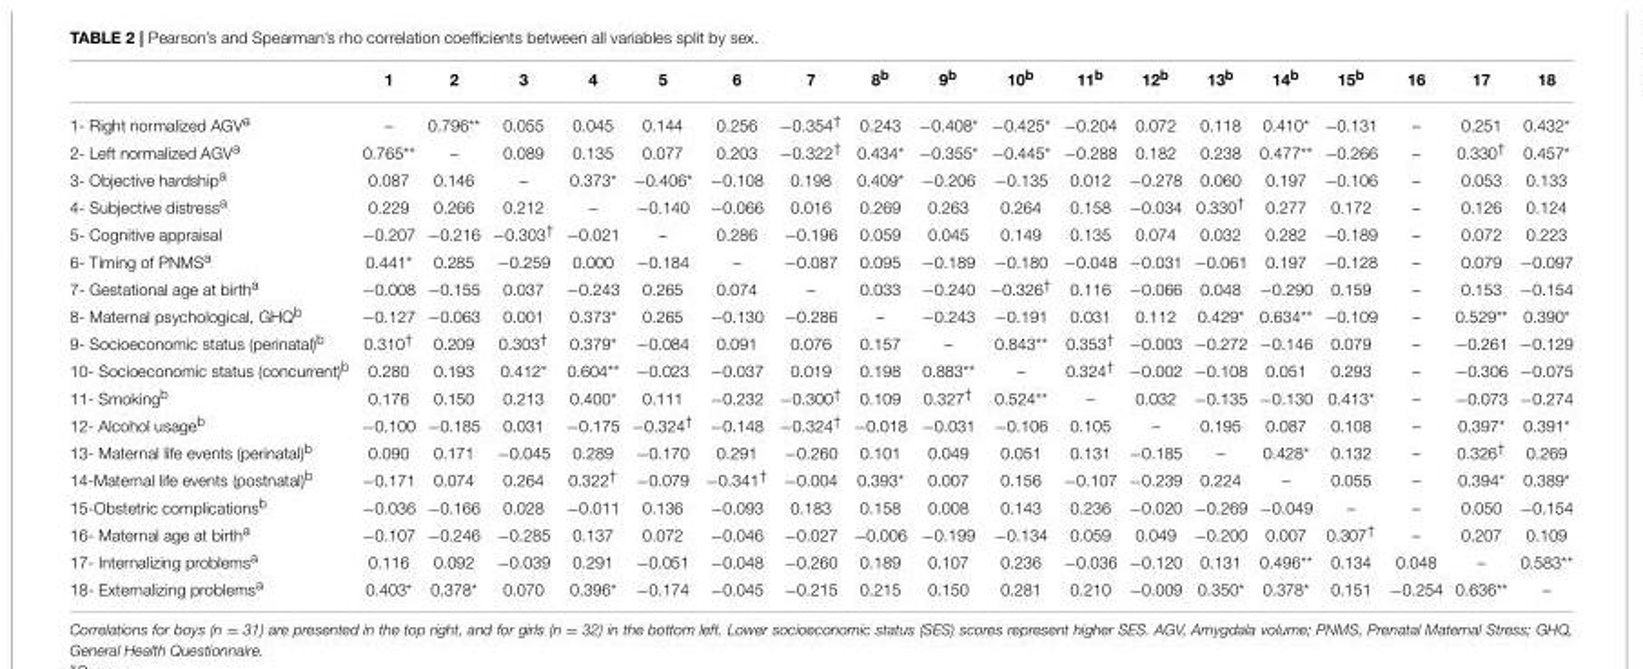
<table><thead><tr><td></td><td>1</td><td>2</td><td>3</td><td>4</td><td>5</td><td>6</td><td>7</td><td>8<sup>b</sup></td><td>9<sup>b</sup></td><td>10<sup>b</sup></td><td>11<sup>b</sup></td><td>12<sup>b</sup></td><td>13<sup>b</sup></td><td>14<sup>b</sup></td><td>15<sup>b</sup></td><td>16</td><td>17</td><td>18</td></tr></thead><tbody><tr><td>1- Right normalized AGV<sup>a</sup></td><td>–</td><td>0.796**</td><td>0.055</td><td>0.045</td><td>0.144</td><td>0.256</td><td>−0.354<sup>†</sup></td><td>0.243</td><td>−0.408*</td><td>−0.425*</td><td>−0.204</td><td>0.072</td><td>0.118</td><td>0.410*</td><td>−0.131</td><td>–</td><td>0.251</td><td>0.432*</td></tr><tr><td>2- Left normalized AGV<sup>a</sup></td><td>0.765**</td><td>–</td><td>0.089</td><td>0.135</td><td>0.077</td><td>0.203</td><td>−0.322<sup>†</sup></td><td>0.434*</td><td>−0.355*</td><td>−0.445*</td><td>−0.288</td><td>0.182</td><td>0.238</td><td>0.477**</td><td>−0.266</td><td>–</td><td>0.330<sup>†</sup></td><td>0.457*</td></tr><tr><td>3- Objective hardship<sup>a</sup></td><td>0.087</td><td>0.146</td><td>–</td><td>0.373*</td><td>−0.406*</td><td>−0.108</td><td>0.198</td><td>0.409*</td><td>−0.206</td><td>−0.135</td><td>0.012</td><td>−0.278</td><td>0.060</td><td>0.197</td><td>−0.106</td><td>–</td><td>0.053</td><td>0.133</td></tr><tr><td>4- Subjective distress<sup>a</sup></td><td>0.229</td><td>0.266</td><td>0.212</td><td>–</td><td>−0.140</td><td>−0.066</td><td>0.016</td><td>0.269</td><td>0.263</td><td>0.264</td><td>0.158</td><td>−0.034</td><td>0.330<sup>†</sup></td><td>0.277</td><td>0.172</td><td>–</td><td>0.126</td><td>0.124</td></tr><tr><td>5- Cognitive appraisal</td><td>−0.207</td><td>−0.216</td><td>−0.303<sup>†</sup></td><td>−0.021</td><td>–</td><td>0.286</td><td>−0.196</td><td>0.059</td><td>0.045</td><td>0.149</td><td>0.135</td><td>0.074</td><td>0.032</td><td>0.282</td><td>−0.189</td><td>–</td><td>0.072</td><td>0.223</td></tr><tr><td>6- Timing of PNMS<sup>a</sup></td><td>0.441*</td><td>0.285</td><td>−0.259</td><td>0.000</td><td>−0.184</td><td>–</td><td>−0.087</td><td>0.095</td><td>−0.189</td><td>−0.180</td><td>−0.048</td><td>−0.031</td><td>−0.061</td><td>0.197</td><td>−0.128</td><td>–</td><td>0.079</td><td>−0.097</td></tr><tr><td>7- Gestational age at birth<sup>a</sup></td><td>−0.008</td><td>−0.155</td><td>0.037</td><td>−0.243</td><td>0.265</td><td>0.074</td><td>–</td><td>0.033</td><td>−0.240</td><td>−0.326<sup>†</sup></td><td>0.116</td><td>−0.066</td><td>0.048</td><td>−0.290</td><td>0.159</td><td>–</td><td>0.153</td><td>−0.154</td></tr><tr><td>8- Maternal psychological, GHQ<sup>b</sup></td><td>−0.127</td><td>−0.063</td><td>0.001</td><td>0.373*</td><td>0.265</td><td>−0.130</td><td>−0.286</td><td>–</td><td>−0.243</td><td>−0.191</td><td>0.031</td><td>0.112</td><td>0.429*</td><td>0.634**</td><td>−0.109</td><td>–</td><td>0.529**</td><td>0.390*</td></tr><tr><td>9- Socioeconomic status (perinatal)<sup>b</sup></td><td>0.310<sup>†</sup></td><td>0.209</td><td>0.303<sup>†</sup></td><td>0.379*</td><td>−0.084</td><td>0.091</td><td>0.076</td><td>0.157</td><td>–</td><td>0.843**</td><td>0.353<sup>†</sup></td><td>−0.003</td><td>−0.272</td><td>−0.146</td><td>0.079</td><td>–</td><td>−0.261</td><td>−0.129</td></tr><tr><td>10- Socioeconomic status (concurrent)<sup>b</sup></td><td>0.280</td><td>0.193</td><td>0.412*</td><td>0.604**</td><td>−0.023</td><td>−0.037</td><td>0.019</td><td>0.198</td><td>0.883**</td><td>–</td><td>0.324<sup>†</sup></td><td>−0.002</td><td>−0.108</td><td>0.051</td><td>0.293</td><td>–</td><td>−0.306</td><td>−0.075</td></tr><tr><td>11- Smoking<sup>b</sup></td><td>0.176</td><td>0.150</td><td>0.213</td><td>0.400*</td><td>0.111</td><td>−0.232</td><td>−0.300<sup>†</sup></td><td>0.109</td><td>0.327<sup>†</sup></td><td>0.524**</td><td>–</td><td>0.032</td><td>−0.135</td><td>−0.130</td><td>0.413*</td><td>–</td><td>−0.073</td><td>−0.274</td></tr><tr><td>12- Alcohol usage<sup>b</sup></td><td>−0.100</td><td>−0.185</td><td>0.031</td><td>−0.175</td><td>−0.324<sup>†</sup></td><td>−0.148</td><td>−0.324<sup>†</sup></td><td>−0.018</td><td>−0.031</td><td>−0.106</td><td>0.105</td><td>–</td><td>0.195</td><td>0.087</td><td>0.108</td><td>–</td><td>0.397*</td><td>0.391*</td></tr><tr><td>13- Maternal life events (perinatal)<sup>b</sup></td><td>0.090</td><td>0.171</td><td>−0.045</td><td>0.289</td><td>−0.170</td><td>0.291</td><td>−0.260</td><td>0.101</td><td>0.049</td><td>0.051</td><td>0.131</td><td>−0.185</td><td>–</td><td>0.428*</td><td>0.132</td><td>–</td><td>0.326<sup>†</sup></td><td>0.269</td></tr><tr><td>14-Maternal life events (postnatal)<sup>b</sup></td><td>−0.171</td><td>0.074</td><td>0.264</td><td>0.322<sup>†</sup></td><td>−0.079</td><td>−0.341<sup>†</sup></td><td>−0.004</td><td>0.393*</td><td>0.007</td><td>0.156</td><td>−0.107</td><td>−0.239</td><td>0.224</td><td>–</td><td>0.055</td><td>–</td><td>0.394*</td><td>0.389*</td></tr><tr><td>15-Obstetric complications<sup>b</sup></td><td>−0.036</td><td>−0.166</td><td>0.028</td><td>−0.011</td><td>0.136</td><td>−0.093</td><td>0.183</td><td>0.158</td><td>0.008</td><td>0.143</td><td>0.236</td><td>−0.020</td><td>−0.269</td><td>−0.049</td><td>–</td><td>–</td><td>0.050</td><td>−0.154</td></tr><tr><td>16- Maternal age at birth<sup>a</sup></td><td>−0.107</td><td>−0.246</td><td>−0.285</td><td>0.137</td><td>0.072</td><td>−0.046</td><td>−0.027</td><td>−0.006</td><td>−0.199</td><td>−0.134</td><td>0.059</td><td>0.049</td><td>−0.200</td><td>0.007</td><td>0.307<sup>†</sup></td><td>–</td><td>0.207</td><td>0.109</td></tr><tr><td>17- Internalizing problems<sup>a</sup></td><td>0.116</td><td>0.092</td><td>−0.039</td><td>0.291</td><td>−0.051</td><td>−0.048</td><td>−0.260</td><td>0.189</td><td>0.107</td><td>0.236</td><td>−0.036</td><td>−0.120</td><td>0.131</td><td>0.496**</td><td>0.134</td><td>0.048</td><td>–</td><td>0.583**</td></tr><tr><td>18- Externalizing problems<sup>a</sup></td><td>0.403*</td><td>0.378*</td><td>0.070</td><td>0.396*</td><td>−0.174</td><td>−0.045</td><td>−0.215</td><td>0.215</td><td>0.150</td><td>0.281</td><td>0.210</td><td>−0.009</td><td>0.350*</td><td>0.378*</td><td>0.151</td><td>−0.254</td><td>0.636**</td><td>–</td></tr></tbody></table>